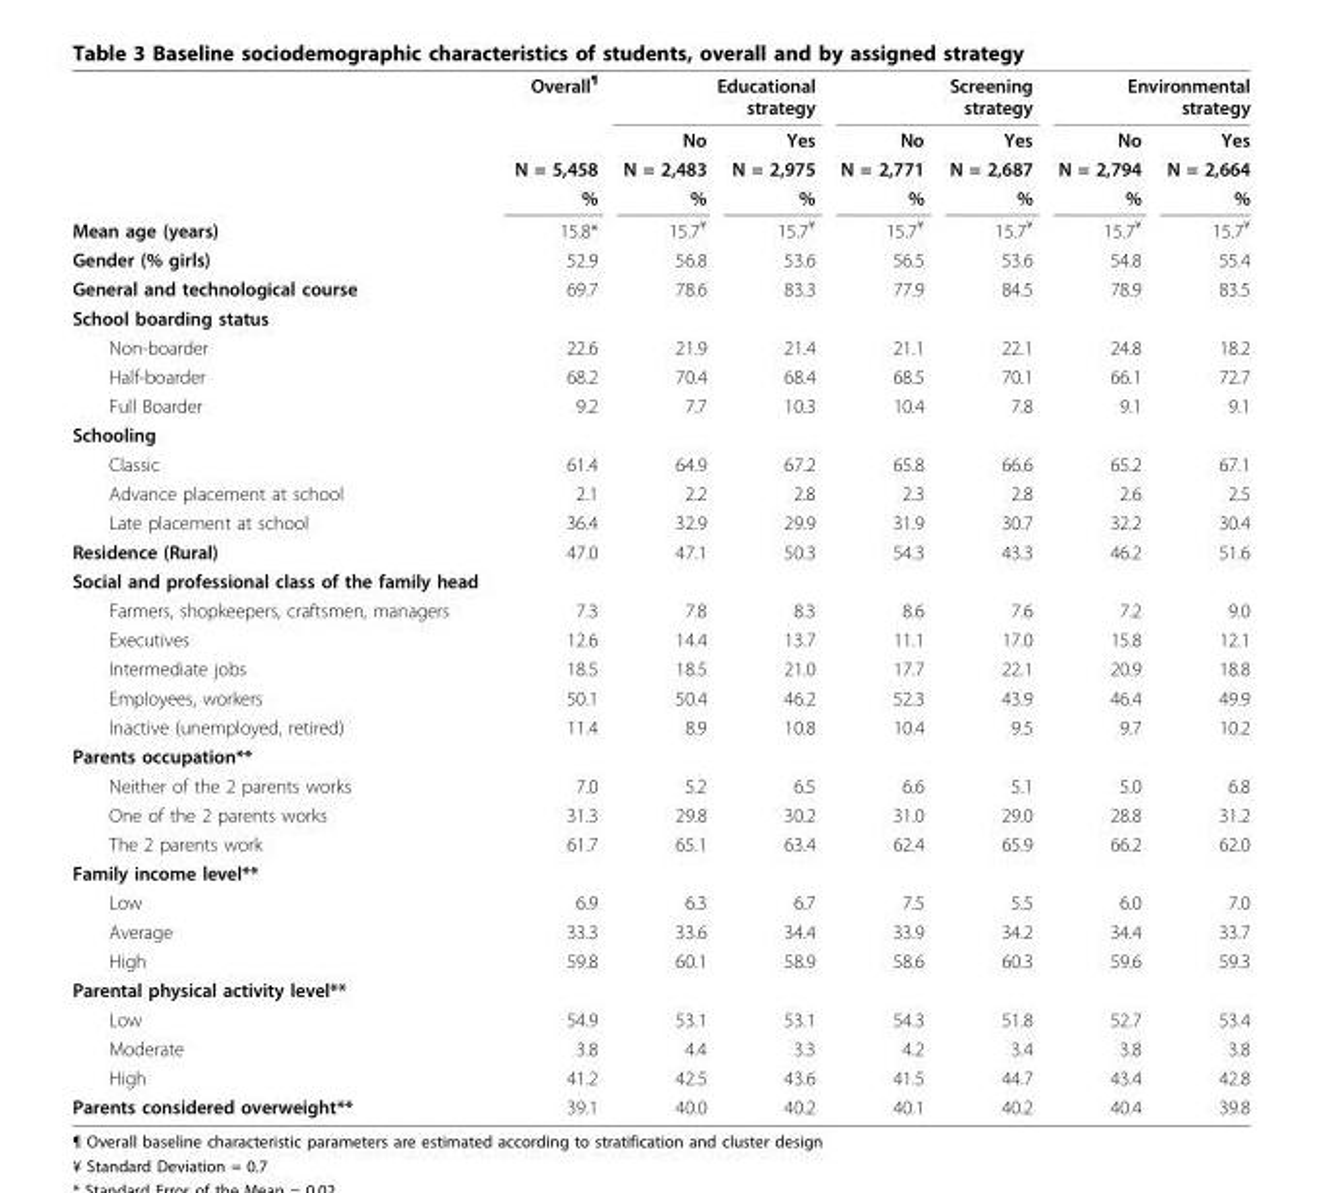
<table><thead><tr><td rowspan="2"></td><td rowspan="2">Overall<sup>¶</sup></td><td colspan="2">Educational strategy</td><td colspan="2">Screening strategy</td><td colspan="2">Environmental strategy</td></tr><tr><td>No</td><td>Yes</td><td>No</td><td>Yes</td><td>No</td><td>Yes</td></tr></thead><tbody><tr><td></td><td>N = 5,458</td><td>N = 2,483</td><td>N = 2,975</td><td>N = 2,771</td><td>N = 2,687</td><td>N = 2,794</td><td>N = 2,664</td></tr><tr><td></td><td>%</td><td>%</td><td>%</td><td>%</td><td>%</td><td>%</td><td>%</td></tr><tr><td>Mean age (years)</td><td>15.8*</td><td>15.7<sup>¥</sup></td><td>15.7<sup>¥</sup></td><td>15.7<sup>¥</sup></td><td>15.7<sup>¥</sup></td><td>15.7<sup>¥</sup></td><td>15.7<sup>¥</sup></td></tr><tr><td>Gender (% girls)</td><td>52.9</td><td>56.8</td><td>53.6</td><td>56.5</td><td>53.6</td><td>54.8</td><td>55.4</td></tr><tr><td>General and technological course</td><td>69.7</td><td>78.6</td><td>83.3</td><td>77.9</td><td>84.5</td><td>78.9</td><td>83.5</td></tr><tr><td colspan="8">School boarding status</td></tr><tr><td>Non-boarder</td><td>22.6</td><td>21.9</td><td>21.4</td><td>21.1</td><td>22.1</td><td>24.8</td><td>18.2</td></tr><tr><td>Half-boarder</td><td>68.2</td><td>70.4</td><td>68.4</td><td>68.5</td><td>70.1</td><td>66.1</td><td>72.7</td></tr><tr><td>Full Boarder</td><td>9.2</td><td>7.7</td><td>10.3</td><td>10.4</td><td>7.8</td><td>9.1</td><td>9.1</td></tr><tr><td colspan="8">Schooling</td></tr><tr><td>Classic</td><td>61.4</td><td>64.9</td><td>67.2</td><td>65.8</td><td>66.6</td><td>65.2</td><td>67.1</td></tr><tr><td>Advance placement at school</td><td>2.1</td><td>2.2</td><td>2.8</td><td>2.3</td><td>2.8</td><td>2.6</td><td>2.5</td></tr><tr><td>Late placement at school</td><td>36.4</td><td>32.9</td><td>29.9</td><td>31.9</td><td>30.7</td><td>32.2</td><td>30.4</td></tr><tr><td>Residence (Rural)</td><td>47.0</td><td>47.1</td><td>50.3</td><td>54.3</td><td>43.3</td><td>46.2</td><td>51.6</td></tr><tr><td colspan="8">Social and professional class of the family head</td></tr><tr><td>Farmers, shopkeepers, craftsmen, managers</td><td>7.3</td><td>7.8</td><td>8.3</td><td>8.6</td><td>7.6</td><td>7.2</td><td>9.0</td></tr><tr><td>Executives</td><td>12.6</td><td>14.4</td><td>13.7</td><td>11.1</td><td>17.0</td><td>15.8</td><td>12.1</td></tr><tr><td>Intermediate jobs</td><td>18.5</td><td>18.5</td><td>21.0</td><td>17.7</td><td>22.1</td><td>20.9</td><td>18.8</td></tr><tr><td>Employees, workers</td><td>50.1</td><td>50.4</td><td>46.2</td><td>52.3</td><td>43.9</td><td>46.4</td><td>49.9</td></tr><tr><td>Inactive (unemployed, retired)</td><td>11.4</td><td>8.9</td><td>10.8</td><td>10.4</td><td>9.5</td><td>9.7</td><td>10.2</td></tr><tr><td colspan="8">Parents occupation**</td></tr><tr><td>Neither of the 2 parents works</td><td>7.0</td><td>5.2</td><td>6.5</td><td>6.6</td><td>5.1</td><td>5.0</td><td>6.8</td></tr><tr><td>One of the 2 parents works</td><td>31.3</td><td>29.8</td><td>30.2</td><td>31.0</td><td>29.0</td><td>28.8</td><td>31.2</td></tr><tr><td>The 2 parents work</td><td>61.7</td><td>65.1</td><td>63.4</td><td>62.4</td><td>65.9</td><td>66.2</td><td>62.0</td></tr><tr><td colspan="8">Family income level**</td></tr><tr><td>Low</td><td>6.9</td><td>6.3</td><td>6.7</td><td>7.5</td><td>5.5</td><td>6.0</td><td>7.0</td></tr><tr><td>Average</td><td>33.3</td><td>33.6</td><td>34.4</td><td>33.9</td><td>34.2</td><td>34.4</td><td>33.7</td></tr><tr><td>High</td><td>59.8</td><td>60.1</td><td>58.9</td><td>58.6</td><td>60.3</td><td>59.6</td><td>59.3</td></tr><tr><td colspan="8">Parental physical activity level**</td></tr><tr><td>Low</td><td>54.9</td><td>53.1</td><td>53.1</td><td>54.3</td><td>51.8</td><td>52.7</td><td>53.4</td></tr><tr><td>Moderate</td><td>3.8</td><td>4.4</td><td>3.3</td><td>4.2</td><td>3.4</td><td>3.8</td><td>3.8</td></tr><tr><td>High</td><td>41.2</td><td>42.5</td><td>43.6</td><td>41.5</td><td>44.7</td><td>43.4</td><td>42.8</td></tr><tr><td>Parents considered overweight**</td><td>39.1</td><td>40.0</td><td>40.2</td><td>40.1</td><td>40.2</td><td>40.4</td><td>39.8</td></tr></tbody></table>